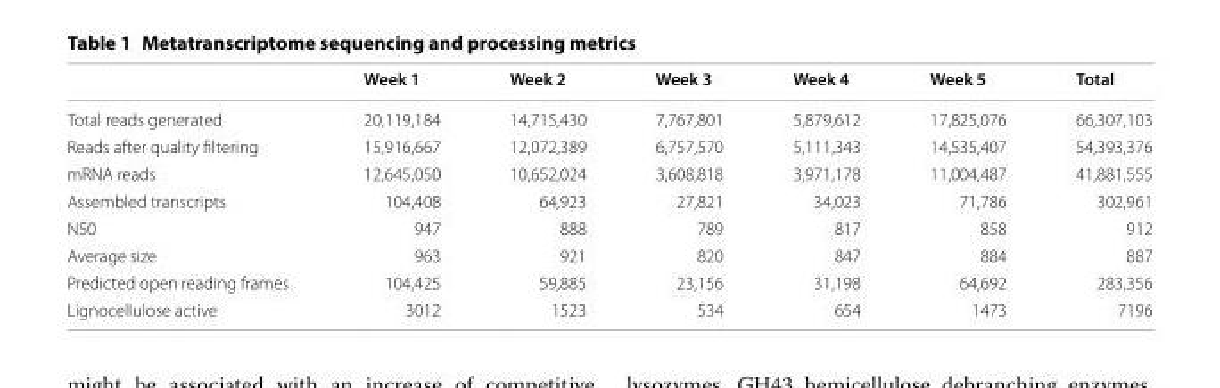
<table><thead><tr><td></td><td>Week 1</td><td>Week 2</td><td>Week 3</td><td>Week 4</td><td>Week 5</td><td>Total</td></tr></thead><tbody><tr><td>Total reads generated</td><td>20,119,184</td><td>14,715,430</td><td>7,767,801</td><td>5,879,612</td><td>17,825,076</td><td>66,307,103</td></tr><tr><td>Reads after quality filtering</td><td>15,916,667</td><td>12,072,389</td><td>6,757,570</td><td>5,111,343</td><td>14,535,407</td><td>54,393,376</td></tr><tr><td>mRNA reads</td><td>12,645,050</td><td>10,652,024</td><td>3,608,818</td><td>3,971,178</td><td>11,004,487</td><td>41,881,555</td></tr><tr><td>Assembled transcripts</td><td>104,408</td><td>64,923</td><td>27,821</td><td>34,023</td><td>71,786</td><td>302,961</td></tr><tr><td>N50</td><td>947</td><td>888</td><td>789</td><td>817</td><td>858</td><td>912</td></tr><tr><td>Average size</td><td>963</td><td>921</td><td>820</td><td>847</td><td>884</td><td>887</td></tr><tr><td>Predicted open reading frames</td><td>104,425</td><td>59,885</td><td>23,156</td><td>31,198</td><td>64,692</td><td>283,356</td></tr><tr><td>Lignocellulose active</td><td>3012</td><td>1523</td><td>534</td><td>654</td><td>1473</td><td>7196</td></tr></tbody></table>